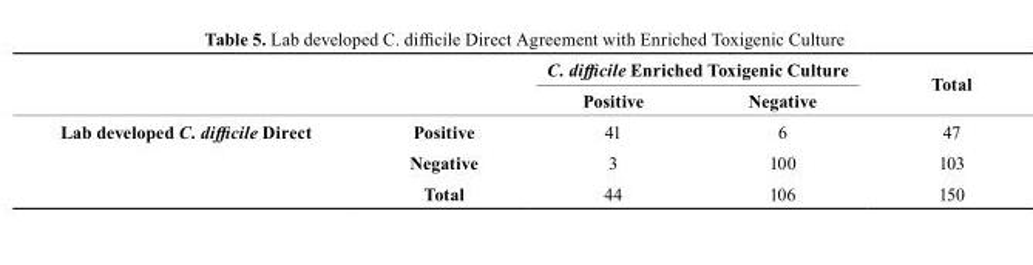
<table><thead><tr><td rowspan="2"></td><td rowspan="2"></td><td colspan="2">C. difficile Enriched toxigenic culture</td><td rowspan="2">total</td></tr><tr><td>Positive</td><td>Negative</td></tr></thead><tbody><tr><td rowspan="3">Lab developed C. difficile Direct</td><td>Positive</td><td>41</td><td>6</td><td>47</td></tr><tr><td>Negative</td><td>3</td><td>100</td><td>103</td></tr><tr><td>total</td><td>44</td><td>106</td><td>150</td></tr></tbody></table>